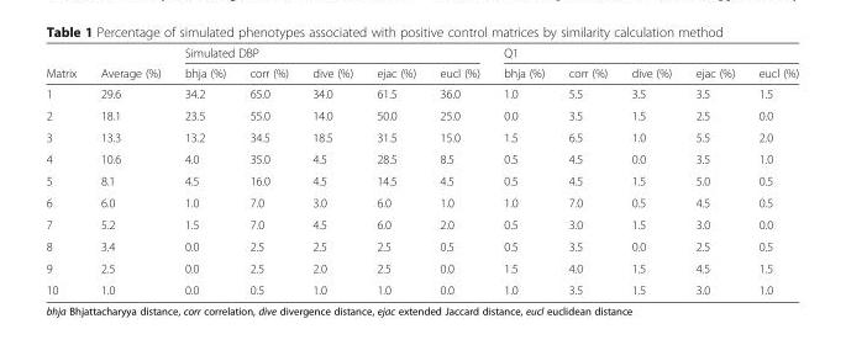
<table><thead><tr><td rowspan="2">Matrix</td><td rowspan="2">Average (%)</td><td colspan="5">Simulated DBP</td><td colspan="5">Q1</td></tr><tr><td>bhja (%)</td><td>corr (%)</td><td>dive (%)</td><td>ejac (%)</td><td>eucl (%)</td><td>bhja (%)</td><td>corr (%)</td><td>dive (%)</td><td>ejac (%)</td><td>eucl (%)</td></tr></thead><tbody><tr><td>1</td><td>29.6</td><td>34.2</td><td>65.0</td><td>34.0</td><td>61.5</td><td>36.0</td><td>1.0</td><td>5.5</td><td>3.5</td><td>3.5</td><td>1.5</td></tr><tr><td>2</td><td>18.1</td><td>23.5</td><td>55.0</td><td>14.0</td><td>50.0</td><td>25.0</td><td>0.0</td><td>3.5</td><td>1.5</td><td>2.5</td><td>0.0</td></tr><tr><td>3</td><td>13.3</td><td>13.2</td><td>34.5</td><td>18.5</td><td>31.5</td><td>15.0</td><td>1.5</td><td>6.5</td><td>1.0</td><td>5.5</td><td>2.0</td></tr><tr><td>4</td><td>10.6</td><td>4.0</td><td>35.0</td><td>4.5</td><td>28.5</td><td>8.5</td><td>0.5</td><td>4.5</td><td>0.0</td><td>3.5</td><td>1.0</td></tr><tr><td>5</td><td>8.1</td><td>4.5</td><td>16.0</td><td>4.5</td><td>14.5</td><td>4.5</td><td>0.5</td><td>4.5</td><td>1.5</td><td>5.0</td><td>0.5</td></tr><tr><td>6</td><td>6.0</td><td>1.0</td><td>7.0</td><td>3.0</td><td>6.0</td><td>1.0</td><td>1.0</td><td>7.0</td><td>0.5</td><td>4.5</td><td>0.5</td></tr><tr><td>7</td><td>5.2</td><td>1.5</td><td>7.0</td><td>4.5</td><td>6.0</td><td>2.0</td><td>0.5</td><td>3.0</td><td>1.5</td><td>3.0</td><td>0.0</td></tr><tr><td>8</td><td>3.4</td><td>0.0</td><td>2.5</td><td>2.5</td><td>2.5</td><td>0.5</td><td>0.5</td><td>3.5</td><td>0.0</td><td>2.5</td><td>0.5</td></tr><tr><td>9</td><td>2.5</td><td>0.0</td><td>2.5</td><td>2.0</td><td>2.5</td><td>0.0</td><td>1.5</td><td>4.0</td><td>1.5</td><td>4.5</td><td>1.5</td></tr><tr><td>10</td><td>1.0</td><td>0.0</td><td>0.5</td><td>1.0</td><td>1.0</td><td>0.0</td><td>1.0</td><td>3.5</td><td>1.5</td><td>3.0</td><td>1.0</td></tr></tbody></table>